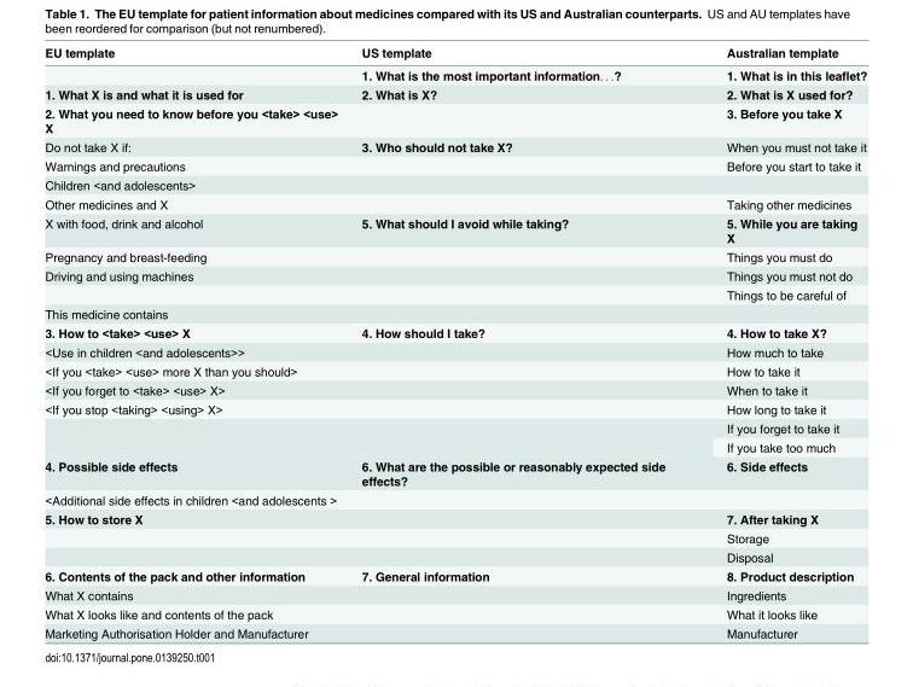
<table><thead><tr><td>EU template</td><td>US template</td><td>Australian template</td></tr></thead><tbody><tr><td></td><td>1. What is the most important information. . .?</td><td>1. What is in this leaflet?</td></tr><tr><td>1. What X is and what it is used for</td><td>2. What is X?</td><td>2. What is X used for?</td></tr><tr><td>2. What you need to know before you &lt;take&gt; &lt;use&gt; X</td><td></td><td>3. Before you take X</td></tr><tr><td>Do not take X if:</td><td>3. Who should not take X?</td><td>When you must not take it</td></tr><tr><td>Warnings and precautions</td><td></td><td>Before you start to take it</td></tr><tr><td colspan="3">Children &lt;and adolescents&gt;</td></tr><tr><td>Other medicines and X</td><td></td><td>Taking other medicines</td></tr><tr><td>X with food, drink and alcohol</td><td>5. What should I avoid while taking?</td><td>5. While you are taking X</td></tr><tr><td>Pregnancy and breast-feeding</td><td></td><td>Things you must do</td></tr><tr><td rowspan="2">Driving and using machines</td><td></td><td>Things you must not do</td></tr><tr><td></td><td>Things to be careful of</td></tr><tr><td colspan="3">This medicine contains</td></tr><tr><td>3. How to &lt;take&gt; &lt;use&gt; X</td><td>4. How should I take?</td><td>4. How to take X?</td></tr><tr><td>&lt;Use in children &lt;and adolescents&gt;&gt;</td><td></td><td>How much to take</td></tr><tr><td>&lt;If you &lt;take&gt; &lt;use&gt; more X than you should&gt;</td><td></td><td>How to take it</td></tr><tr><td>&lt;If you forget to &lt;take&gt; &lt;use&gt; X&gt;</td><td></td><td>When to take it</td></tr><tr><td rowspan="3">&lt;If you stop &lt;taking&gt; &lt;using&gt; X&gt;</td><td></td><td>How long to take it</td></tr><tr><td rowspan="2"></td><td>If you forget to take it</td></tr><tr><td>If you take too much</td></tr><tr><td>4. Possible side effects</td><td>6. What are the possible or reasonably expected side effects?</td><td>6. Side effects</td></tr><tr><td colspan="3">&lt;Additional side effects in children &lt;and adolescents &gt;</td></tr><tr><td rowspan="3">5. How to store X</td><td></td><td>7. After taking X</td></tr><tr><td></td><td>Storage</td></tr><tr><td></td><td>Disposal</td></tr><tr><td>6. Contents of the pack and other information</td><td>7. General information</td><td>8. Product description</td></tr><tr><td>What X contains</td><td></td><td>Ingredients</td></tr><tr><td>What X looks like and contents of the pack</td><td></td><td>What it looks like</td></tr><tr><td>Marketing Authorisation Holder and Manufacturer</td><td></td><td>Manufacturer</td></tr></tbody></table>